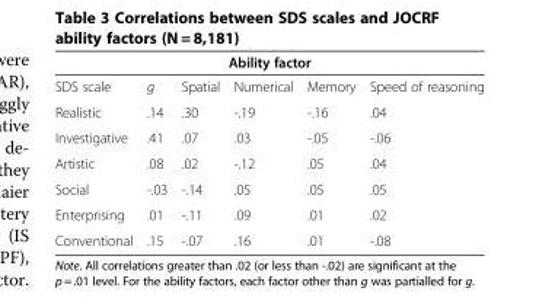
<table><thead><tr><td colspan="6">Ability factor</td></tr><tr><td>SDS scale</td><td>g</td><td>Spatial</td><td>Numerical</td><td>Memory</td><td>Speed of reasoning</td></tr></thead><tbody><tr><td>Realistic</td><td>.14</td><td>.30</td><td>-.19</td><td>-.16</td><td>.04</td></tr><tr><td>Investigative</td><td>.41</td><td>.07</td><td>.03</td><td>-.05</td><td>-.06</td></tr><tr><td>Artistic</td><td>.08</td><td>.02</td><td>-.12</td><td>.05</td><td>.04</td></tr><tr><td>Social</td><td>-.03</td><td>-.14</td><td>.05</td><td>.05</td><td>.05</td></tr><tr><td>Enterprising</td><td>.01</td><td>-.11</td><td>.09</td><td>.01</td><td>.02</td></tr><tr><td>Conventional</td><td>.15</td><td>-.07</td><td>.16</td><td>.01</td><td>-.08</td></tr></tbody></table>